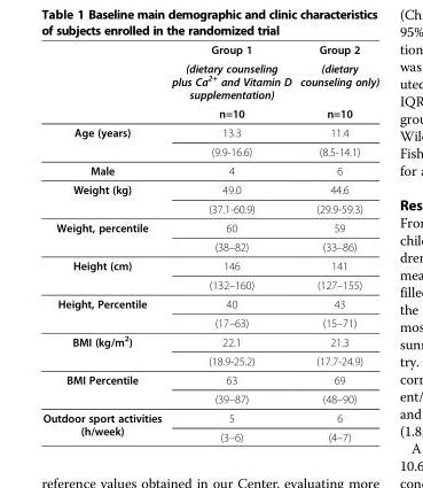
<table><thead><tr><td rowspan="3"></td><td rowspan="3">Group 1 (dietary counseling plus Ca<sup>2+</sup> and Vitamin D supplementation) n=10</td><td rowspan="3">Group 2 (dietary counseling only) n=10</td></tr><tr></tr><tr></tr></thead><tbody><tr><td rowspan="2">Age (years)</td><td>13.3</td><td>11.4</td></tr><tr><td>(9.9-16.6)</td><td>(8.5-14.1)</td></tr><tr><td>Male</td><td>4</td><td>6</td></tr><tr><td rowspan="2">Weight (kg)</td><td>49.0</td><td>44.6</td></tr><tr><td>(37.1-60.9)</td><td>(29.9-59.3)</td></tr><tr><td rowspan="2">Weight, percentile</td><td>60</td><td>59</td></tr><tr><td>(38–82)</td><td>(33–86)</td></tr><tr><td rowspan="2">Height (cm)</td><td>146</td><td>141</td></tr><tr><td>(132–160)</td><td>(127–155)</td></tr><tr><td rowspan="2">Height, Percentile</td><td>40</td><td>43</td></tr><tr><td>(17–63)</td><td>(15–71)</td></tr><tr><td rowspan="2">BMI (kg/m<sup>2</sup>)</td><td>22.1</td><td>21.3</td></tr><tr><td>(18.9-25.2)</td><td>(17.7-24.9)</td></tr><tr><td rowspan="2">BMI Percentile</td><td>63</td><td>69</td></tr><tr><td>(39–87)</td><td>(48–90)</td></tr><tr><td rowspan="2">Outdoor sport activities (h/week)</td><td>5</td><td>6</td></tr><tr><td>(3–6)</td><td>(4–7)</td></tr></tbody></table>